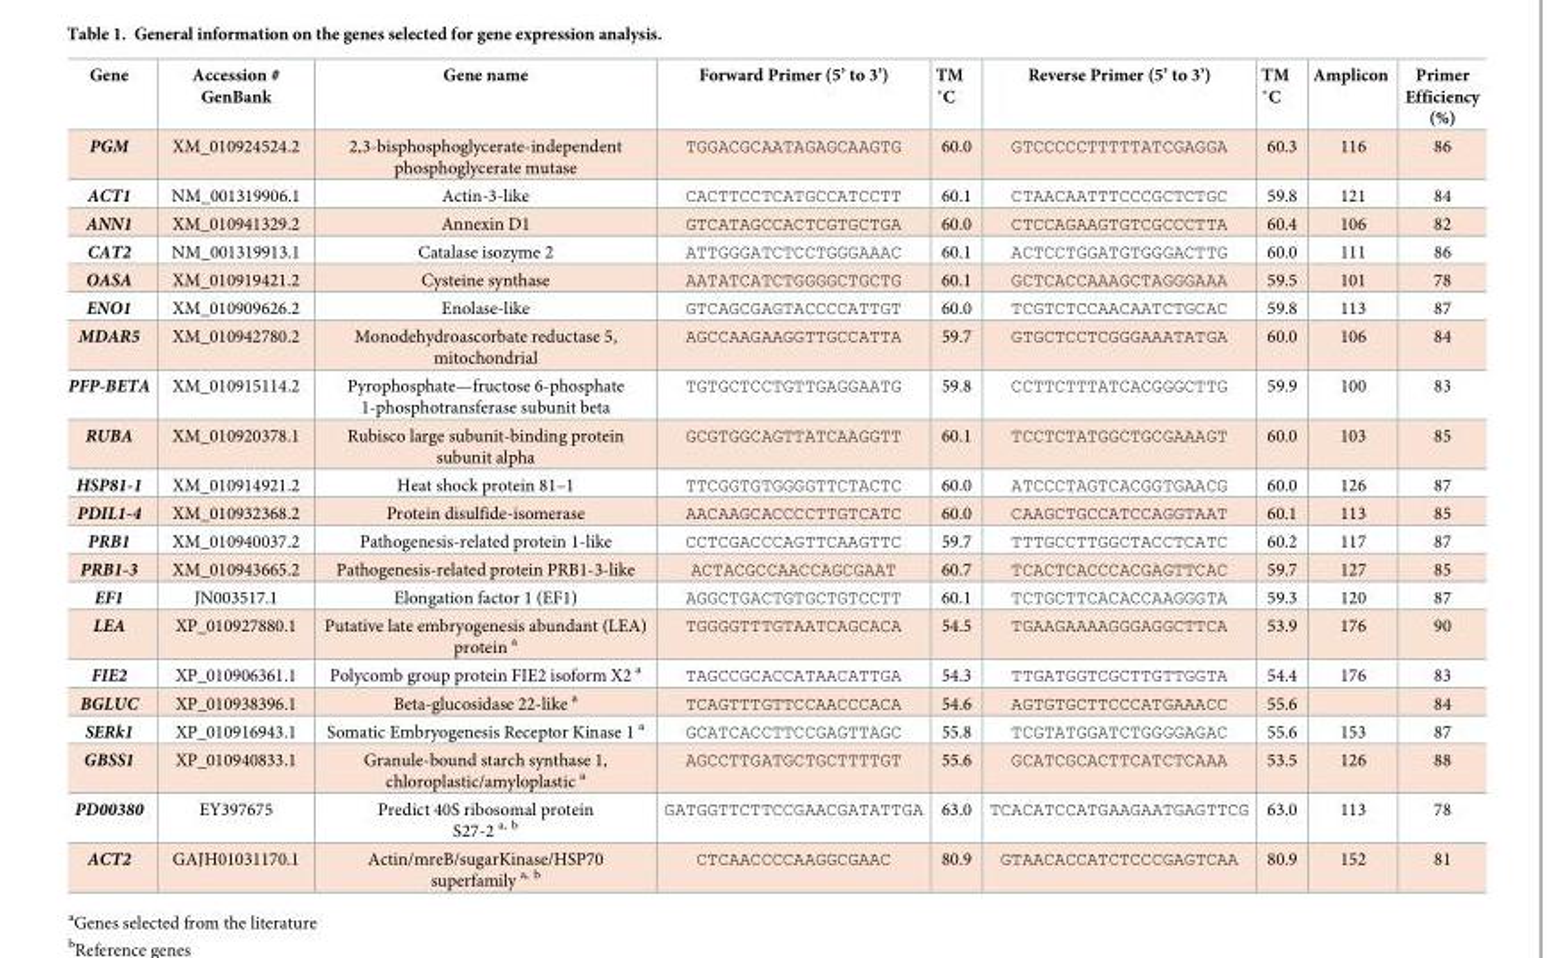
<table><thead><tr><td>Gene</td><td>Accession # GenBank</td><td>Gene name</td><td>Forward Primer (5’ to 3’)</td><td>TM ˚C</td><td>Reverse Primer (5’ to 3’)</td><td>TM ˚C</td><td>Amplicon</td><td>Primer Efficiency (%)</td></tr></thead><tbody><tr><td>PGM</td><td>XM_010924524.2</td><td>2,3-bisphosphoglycerate-independent phosphoglycerate mutase</td><td>TGGACGCAATAGAGCAAGTG</td><td>60.0</td><td>GTCCCCCTTTTTATCGAGGA</td><td>60.3</td><td>116</td><td>86</td></tr><tr><td>ACT1</td><td>NM_001319906.1</td><td>Actin-3-like</td><td>CACTTCCTCATGCCATCCTT</td><td>60.1</td><td>CTAACAATTTCCCGCTCTGC</td><td>59.8</td><td>121</td><td>84</td></tr><tr><td>ANN1</td><td>XM_010941329.2</td><td>Annexin D1</td><td>GTCATAGCCACTCGTGCTGA</td><td>60.0</td><td>CTCCAGAAGTGTCGCCCTTA</td><td>60.4</td><td>106</td><td>82</td></tr><tr><td>CAT2</td><td>NM_001319913.1</td><td>Catalase isozyme 2</td><td>ATTGGGATCTCCTGGGAAAC</td><td>60.1</td><td>ACTCCTGGATGTGGGACTTG</td><td>60.0</td><td>111</td><td>86</td></tr><tr><td>OASA</td><td>XM_010919421.2</td><td>Cysteine synthase</td><td>AATATCATCTGGGGCTGCTG</td><td>60.1</td><td>GCTCACCAAAGCTAGGGAAA</td><td>59.5</td><td>101</td><td>78</td></tr><tr><td>ENO1</td><td>XM_010909626.2</td><td>Enolase-like</td><td>GTCAGCGAGTACCCCATTGT</td><td>60.0</td><td>TCGTCTCCAACAATCTGCAC</td><td>59.8</td><td>113</td><td>87</td></tr><tr><td>MDAR5</td><td>XM_010942780.2</td><td>Monodehydroascorbate reductase 5, mitochondrial</td><td>AGCCAAGAAGGTTGCCATTA</td><td>59.7</td><td>GTGCTCCTCGGGAAATATGA</td><td>60.0</td><td>106</td><td>84</td></tr><tr><td>PFP-BETA</td><td>XM_010915114.2</td><td>Pyrophosphate—fructose 6-phosphate 1-phosphotransferase subunit beta</td><td>TGTGCTCCTGTTGAGGAATG</td><td>59.8</td><td>CCTTCTTTATCACGGGCTTG</td><td>59.9</td><td>100</td><td>83</td></tr><tr><td>RUBA</td><td>XM_010920378.1</td><td>Rubisco large subunit-binding protein subunit alpha</td><td>GCGTGGCAGTTATCAAGGTT</td><td>60.1</td><td>TCCTCTATGGCTGCGAAAGT</td><td>60.0</td><td>103</td><td>85</td></tr><tr><td>HSP81-1</td><td>XM_010914921.2</td><td>Heat shock protein 81–1</td><td>TTCGGTGTGGGGTTCTACTC</td><td>60.0</td><td>ATCCCTAGTCACGGTGAACG</td><td>60.0</td><td>126</td><td>87</td></tr><tr><td>PDIL1-4</td><td>XM_010932368.2</td><td>Protein disulfide-isomerase</td><td>AACAAGCACCCCTTGTCATC</td><td>60.0</td><td>CAAGCTGCCATCCAGGTAAT</td><td>60.1</td><td>113</td><td>85</td></tr><tr><td>PRB1</td><td>XM_010940037.2</td><td>Pathogenesis-related protein 1-like</td><td>CCTCGACCCAGTTCAAGTTC</td><td>59.7</td><td>TTTGCCTTGGCTACCTCATC</td><td>60.2</td><td>117</td><td>87</td></tr><tr><td>PRB1-3</td><td>XM_010943665.2</td><td>Pathogenesis-related protein PRB1-3-like</td><td>ACTACGCCAACCAGCGAAT</td><td>60.7</td><td>TCACTCACCCACGAGTTCAC</td><td>59.7</td><td>127</td><td>85</td></tr><tr><td>EF1</td><td>JN003517.1</td><td>Elongation factor 1 (EF1)</td><td>AGGCTGACTGTGCTGTCCTT</td><td>60.1</td><td>TCTGCTTCACACCAAGGGTA</td><td>59.3</td><td>120</td><td>87</td></tr><tr><td>LEA</td><td>XP_010927880.1</td><td>Putative late embryogenesis abundant (LEA) protein <sup>a</sup></td><td>TGGGGTTTGTAATCAGCACA</td><td>54.5</td><td>TGAAGAAAAGGGAGGCTTCA</td><td>53.9</td><td>176</td><td>90</td></tr><tr><td>FIE2</td><td>XP_010906361.1</td><td>Polycomb group protein FIE2 isoform X2 <sup>a</sup></td><td>TAGCCGCACCATAACATTGA</td><td>54.3</td><td>TTGATGGTCGCTTGTTGGTA</td><td>54.4</td><td>176</td><td>83</td></tr><tr><td>BGLUC</td><td>XP_010938396.1</td><td>Beta-glucosidase 22-like <sup>a</sup></td><td>TCAGTTTGTTCCAACCCACA</td><td>54.6</td><td>AGTGTGCTTCCCATGAAACC</td><td>55.6</td><td></td><td>84</td></tr><tr><td>SERk1</td><td>XP_010916943.1</td><td>Somatic Embryogenesis Receptor Kinase 1 <sup>a</sup></td><td>GCATCACCTTCCGAGTTAGC</td><td>55.8</td><td>TCGTATGGATCTGGGGAGAC</td><td>55.6</td><td>153</td><td>87</td></tr><tr><td>GBSS1</td><td>XP_010940833.1</td><td>Granule-bound starch synthase 1, chloroplastic/amyloplastic <sup>a</sup></td><td>AGCCTTGATGCTGCTTTTGT</td><td>55.6</td><td>GCATCGCACTTCATCTCAAA</td><td>53.5</td><td>126</td><td>88</td></tr><tr><td>PD00380</td><td>EY397675</td><td>Predict 40S ribosomal protein S27-2 <sup>a, b</sup></td><td>GATGGTTCTTCCGAACGATATTGA</td><td>63.0</td><td>TCACATCCATGAAGAATGAGTTCG</td><td>63.0</td><td>113</td><td>78</td></tr><tr><td>ACT2</td><td>GAJH01031170.1</td><td>Actin/mreB/sugarKinase/HSP70 superfamily <sup>a, b</sup></td><td>CTCAACCCCAAGGCGAAC</td><td>80.9</td><td>GTAACACCATCTCCCGAGTCAA</td><td>80.9</td><td>152</td><td>81</td></tr></tbody></table>